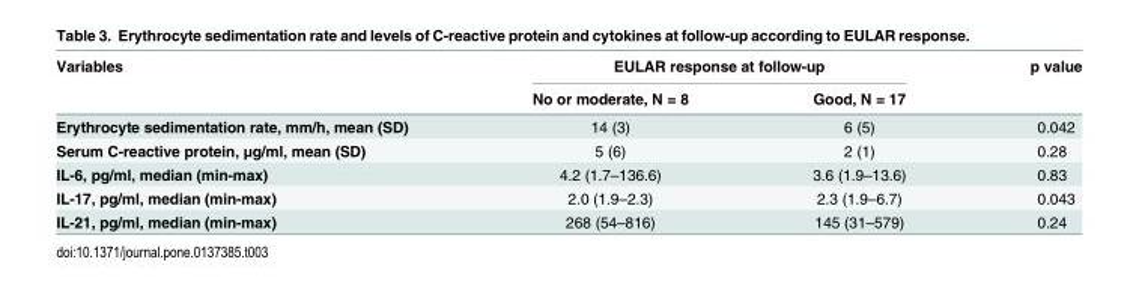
<table><thead><tr><td rowspan="2">Variables</td><td colspan="2">EULAR response at follow-up</td><td rowspan="2">p value</td></tr><tr><td>No or moderate, N = 8</td><td>Good, N = 17</td></tr></thead><tbody><tr><td>Erythrocyte sedimentation rate, mm/h, mean (SD)</td><td>14 (3)</td><td>6 (5)</td><td>0.042</td></tr><tr><td>Serum C-reactive protein, μg/ml, mean (SD)</td><td>5 (6)</td><td>2 (1)</td><td>0.28</td></tr><tr><td>IL-6, pg/ml, median (min-max)</td><td>4.2 (1.7–136.6)</td><td>3.6 (1.9–13.6)</td><td>0.83</td></tr><tr><td>IL-17, pg/ml, median (min-max)</td><td>2.0 (1.9–2.3)</td><td>2.3 (1.9–6.7)</td><td>0.043</td></tr><tr><td>IL-21, pg/ml, median (min-max)</td><td>268 (54–816)</td><td>145 (31–579)</td><td>0.24</td></tr></tbody></table>